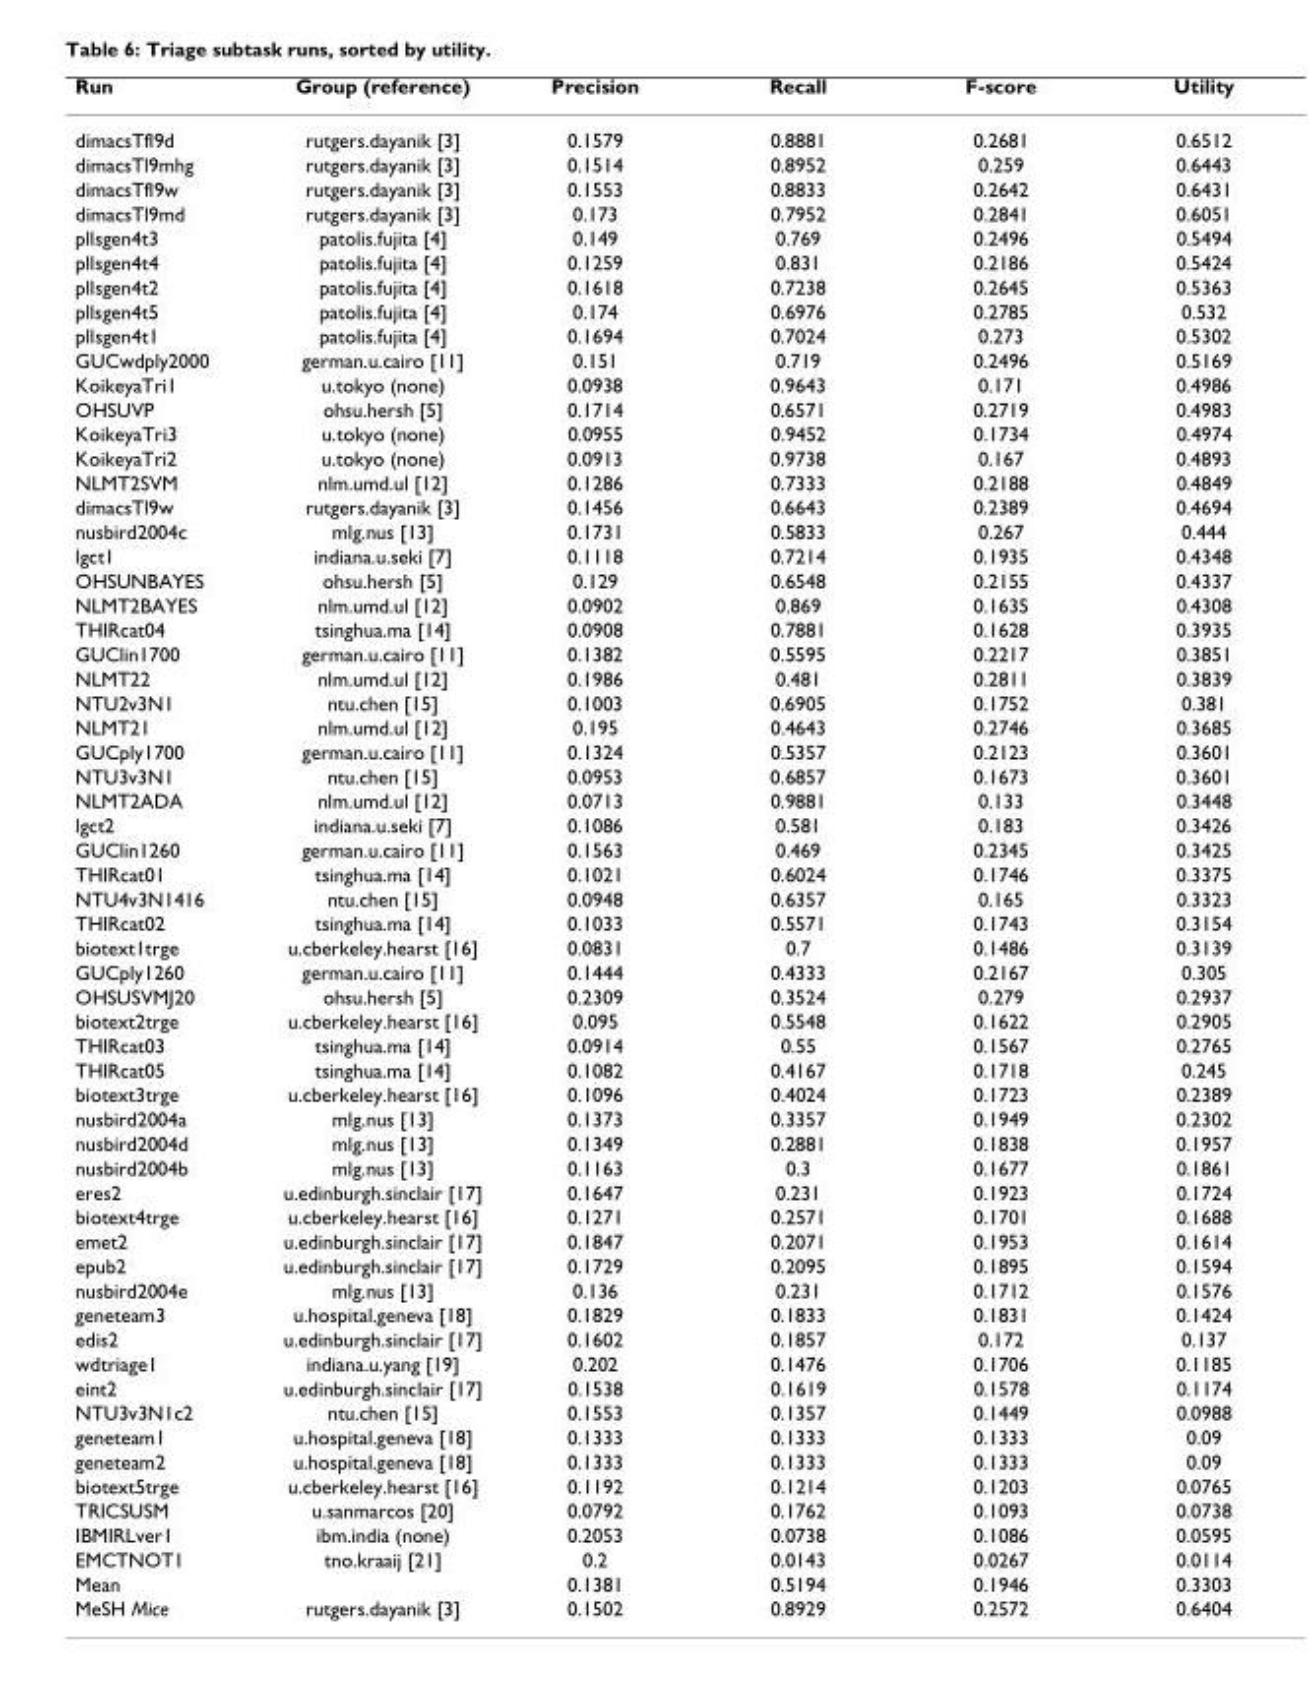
<table><thead><tr><td>Run</td><td>Group (reference)</td><td>Precision</td><td>Recall</td><td>F-score</td><td>Utility</td></tr></thead><tbody><tr><td>dimacsTfl9d</td><td>rutgers.dayanik [3]</td><td>0.1579</td><td>0.8881</td><td>0.2681</td><td>0.6512</td></tr><tr><td>dimacsTl9mhg</td><td>rutgers.dayanik [3]</td><td>0.1514</td><td>0.8952</td><td>0.259</td><td>0.6443</td></tr><tr><td>dimacsTfl9w</td><td>rutgers.dayanik [3]</td><td>0.1553</td><td>0.8833</td><td>0.2642</td><td>0.6431</td></tr><tr><td>dimacsTl9md</td><td>rutgers.dayanik [3]</td><td>0.173</td><td>0.7952</td><td>0.2841</td><td>0.6051</td></tr><tr><td>pllsgen4t3</td><td>patolis.fujita [4]</td><td>0.149</td><td>0.769</td><td>0.2496</td><td>0.5494</td></tr><tr><td>pllsgen4t4</td><td>patolis.fujita [4]</td><td>0.1259</td><td>0.831</td><td>0.2186</td><td>0.5424</td></tr><tr><td>pllsgen4t2</td><td>patolis.fujita [4]</td><td>0.1618</td><td>0.7238</td><td>0.2645</td><td>0.5363</td></tr><tr><td>pllsgen4t5</td><td>patolis.fujita [4]</td><td>0.174</td><td>0.6976</td><td>0.2785</td><td>0.532</td></tr><tr><td>pllsgen4t1</td><td>patolis.fujita [4]</td><td>0.1694</td><td>0.7024</td><td>0.273</td><td>0.5302</td></tr><tr><td>GUCwdply2000</td><td>german.u.cairo [11]</td><td>0.151</td><td>0.719</td><td>0.2496</td><td>0.5169</td></tr><tr><td>KoikeyaTri1</td><td>u.tokyo (none)</td><td>0.0938</td><td>0.9643</td><td>0.171</td><td>0.4986</td></tr><tr><td>OHSUVP</td><td>ohsu.hersh [5]</td><td>0.1714</td><td>0.6571</td><td>0.2719</td><td>0.4983</td></tr><tr><td>KoikeyaTri3</td><td>u.tokyo (none)</td><td>0.0955</td><td>0.9452</td><td>0.1734</td><td>0.4974</td></tr><tr><td>KoikeyaTri2</td><td>u.tokyo (none)</td><td>0.0913</td><td>0.9738</td><td>0.167</td><td>0.4893</td></tr><tr><td>NLMT2SVM</td><td>nlm.umd.ul [12]</td><td>0.1286</td><td>0.7333</td><td>0.2188</td><td>0.4849</td></tr><tr><td>dimacsTl9w</td><td>rutgers.dayanik [3]</td><td>0.1456</td><td>0.6643</td><td>0.2389</td><td>0.4694</td></tr><tr><td>nusbird2004c</td><td>mlg.nus [13]</td><td>0.1731</td><td>0.5833</td><td>0.267</td><td>0.444</td></tr><tr><td>lgct1</td><td>indiana.u.seki [7]</td><td>0.1118</td><td>0.7214</td><td>0.1935</td><td>0.4348</td></tr><tr><td>OHSUNBAYES</td><td>ohsu.hersh [5]</td><td>0.129</td><td>0.6548</td><td>0.2155</td><td>0.4337</td></tr><tr><td>NLMT2BAYES</td><td>nlm.umd.ul [12]</td><td>0.0902</td><td>0.869</td><td>0.1635</td><td>0.4308</td></tr><tr><td>THIRcat04</td><td>tsinghua.ma [14]</td><td>0.0908</td><td>0.7881</td><td>0.1628</td><td>0.3935</td></tr><tr><td>GUClin1700</td><td>german.u.cairo [11]</td><td>0.1382</td><td>0.5595</td><td>0.2217</td><td>0.3851</td></tr><tr><td>NLMT22</td><td>nlm.umd.ul [12]</td><td>0.1986</td><td>0.481</td><td>0.2811</td><td>0.3839</td></tr><tr><td>NTU2v3N1</td><td>ntu.chen [15]</td><td>0.1003</td><td>0.6905</td><td>0.1752</td><td>0.381</td></tr><tr><td>NLMT21</td><td>nlm.umd.ul [12]</td><td>0.195</td><td>0.4643</td><td>0.2746</td><td>0.3685</td></tr><tr><td>GUCply1700</td><td>german.u.cairo [11]</td><td>0.1324</td><td>0.5357</td><td>0.2123</td><td>0.3601</td></tr><tr><td>NTU3v3N1</td><td>ntu.chen [15]</td><td>0.0953</td><td>0.6857</td><td>0.1673</td><td>0.3601</td></tr><tr><td>NLMT2ADA</td><td>nlm.umd.ul [12]</td><td>0.0713</td><td>0.9881</td><td>0.133</td><td>0.3448</td></tr><tr><td>lgct2</td><td>indiana.u.seki [7]</td><td>0.1086</td><td>0.581</td><td>0.183</td><td>0.3426</td></tr><tr><td>GUClin1260</td><td>german.u.cairo [11]</td><td>0.1563</td><td>0.469</td><td>0.2345</td><td>0.3425</td></tr><tr><td>THIRcat01</td><td>tsinghua.ma [14]</td><td>0.1021</td><td>0.6024</td><td>0.1746</td><td>0.3375</td></tr><tr><td>NTU4v3N1416</td><td>ntu.chen [15]</td><td>0.0948</td><td>0.6357</td><td>0.165</td><td>0.3323</td></tr><tr><td>THIRcat02</td><td>tsinghua.ma [14]</td><td>0.1033</td><td>0.5571</td><td>0.1743</td><td>0.3154</td></tr><tr><td>biotext1trge</td><td>u.cberkeley.hearst [16]</td><td>0.0831</td><td>0.7</td><td>0.1486</td><td>0.3139</td></tr><tr><td>GUCply1260</td><td>german.u.cairo [11]</td><td>0.1444</td><td>0.4333</td><td>0.2167</td><td>0.305</td></tr><tr><td>OHSUSVMJ20</td><td>ohsu.hersh [5]</td><td>0.2309</td><td>0.3524</td><td>0.279</td><td>0.2937</td></tr><tr><td>biotext2trge</td><td>u.cberkeley.hearst [16]</td><td>0.095</td><td>0.5548</td><td>0.1622</td><td>0.2905</td></tr><tr><td>THIRcat03</td><td>tsinghua.ma [14]</td><td>0.0914</td><td>0.55</td><td>0.1567</td><td>0.2765</td></tr><tr><td>THIRcat05</td><td>tsinghua.ma [14]</td><td>0.1082</td><td>0.4167</td><td>0.1718</td><td>0.245</td></tr><tr><td>biotext3trge</td><td>u.cberkeley.hearst [16]</td><td>0.1096</td><td>0.4024</td><td>0.1723</td><td>0.2389</td></tr><tr><td>nusbird2004a</td><td>mlg.nus [13]</td><td>0.1373</td><td>0.3357</td><td>0.1949</td><td>0.2302</td></tr><tr><td>nusbird2004d</td><td>mlg.nus [13]</td><td>0.1349</td><td>0.2881</td><td>0.1838</td><td>0.1957</td></tr><tr><td>nusbird2004b</td><td>mlg.nus [13]</td><td>0.1163</td><td>0.3</td><td>0.1677</td><td>0.1861</td></tr><tr><td>eres2</td><td>u.edinburgh.sinclair [17]</td><td>0.1647</td><td>0.231</td><td>0.1923</td><td>0.1724</td></tr><tr><td>biotext4trge</td><td>u.cberkeley.hearst [16]</td><td>0.1271</td><td>0.2571</td><td>0.1701</td><td>0.1688</td></tr><tr><td>emet2</td><td>u.edinburgh.sinclair [17]</td><td>0.1847</td><td>0.2071</td><td>0.1953</td><td>0.1614</td></tr><tr><td>epub2</td><td>u.edinburgh.sinclair [17]</td><td>0.1729</td><td>0.2095</td><td>0.1895</td><td>0.1594</td></tr><tr><td>nusbird2004e</td><td>mlg.nus [13]</td><td>0.136</td><td>0.231</td><td>0.1712</td><td>0.1576</td></tr><tr><td>geneteam3</td><td>u.hospital.geneva [18]</td><td>0.1829</td><td>0.1833</td><td>0.1831</td><td>0.1424</td></tr><tr><td>edis2</td><td>u.edinburgh.sinclair [17]</td><td>0.1602</td><td>0.1857</td><td>0.172</td><td>0.137</td></tr><tr><td>wdtriage1</td><td>indiana.u.yang [19]</td><td>0.202</td><td>0.1476</td><td>0.1706</td><td>0.1185</td></tr><tr><td>eint2</td><td>u.edinburgh.sinclair [17]</td><td>0.1538</td><td>0.1619</td><td>0.1578</td><td>0.1174</td></tr><tr><td>NTU3v3N1c2</td><td>ntu.chen [15]</td><td>0.1553</td><td>0.1357</td><td>0.1449</td><td>0.0988</td></tr><tr><td>geneteam1</td><td>u.hospital.geneva [18]</td><td>0.1333</td><td>0.1333</td><td>0.1333</td><td>0.09</td></tr><tr><td>geneteam2</td><td>u.hospital.geneva [18]</td><td>0.1333</td><td>0.1333</td><td>0.1333</td><td>0.09</td></tr><tr><td>biotext5trge</td><td>u.cberkeley.hearst [16]</td><td>0.1192</td><td>0.1214</td><td>0.1203</td><td>0.0765</td></tr><tr><td>TRICSUSM</td><td>u.sanmarcos [20]</td><td>0.0792</td><td>0.1762</td><td>0.1093</td><td>0.0738</td></tr><tr><td>IBMIRLver1</td><td>ibm.india (none)</td><td>0.2053</td><td>0.0738</td><td>0.1086</td><td>0.0595</td></tr><tr><td>EMCTNOT1</td><td>tno.kraaij [21]</td><td>0.2</td><td>0.0143</td><td>0.0267</td><td>0.0114</td></tr><tr><td>Mean</td><td></td><td>0.1381</td><td>0.5194</td><td>0.1946</td><td>0.3303</td></tr><tr><td>MeSH Mice</td><td>rutgers.dayanik [3]</td><td>0.1502</td><td>0.8929</td><td>0.2572</td><td>0.6404</td></tr></tbody></table>